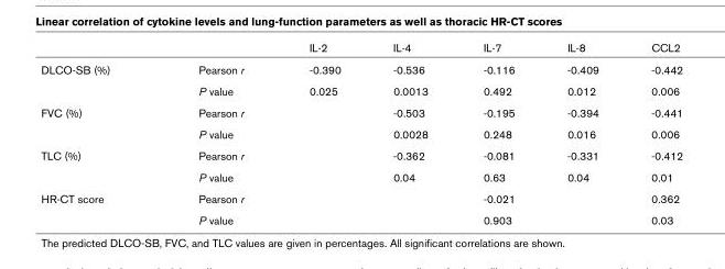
<table><thead><tr><td></td><td></td><td>IL-2</td><td>IL-4</td><td>IL-7</td><td>IL-8</td><td>CCL2</td></tr></thead><tbody><tr><td rowspan="2">DLCO-SB (%)</td><td>Pearson r</td><td>-0.390</td><td>-0.536</td><td>-0.116</td><td>-0.409</td><td>-0.442</td></tr><tr><td>P value</td><td>0.025</td><td>0.0013</td><td>0.492</td><td>0.012</td><td>0.006</td></tr><tr><td rowspan="2">FVC (%)</td><td>Pearson r</td><td></td><td>-0.503</td><td>-0.195</td><td>-0.394</td><td>-0.441</td></tr><tr><td>P value</td><td></td><td>0.0028</td><td>0.248</td><td>0.016</td><td>0.006</td></tr><tr><td rowspan="2">TLC (%)</td><td>Pearson r</td><td></td><td>-0.362</td><td>-0.081</td><td>-0.331</td><td>-0.412</td></tr><tr><td>P value</td><td></td><td>0.04</td><td>0.63</td><td>0.04</td><td>0.01</td></tr><tr><td rowspan="2">HR-CT score</td><td>Pearson r</td><td></td><td></td><td>-0.021</td><td></td><td>0.362</td></tr><tr><td>P value</td><td></td><td></td><td>0.903</td><td></td><td>0.03</td></tr></tbody></table>